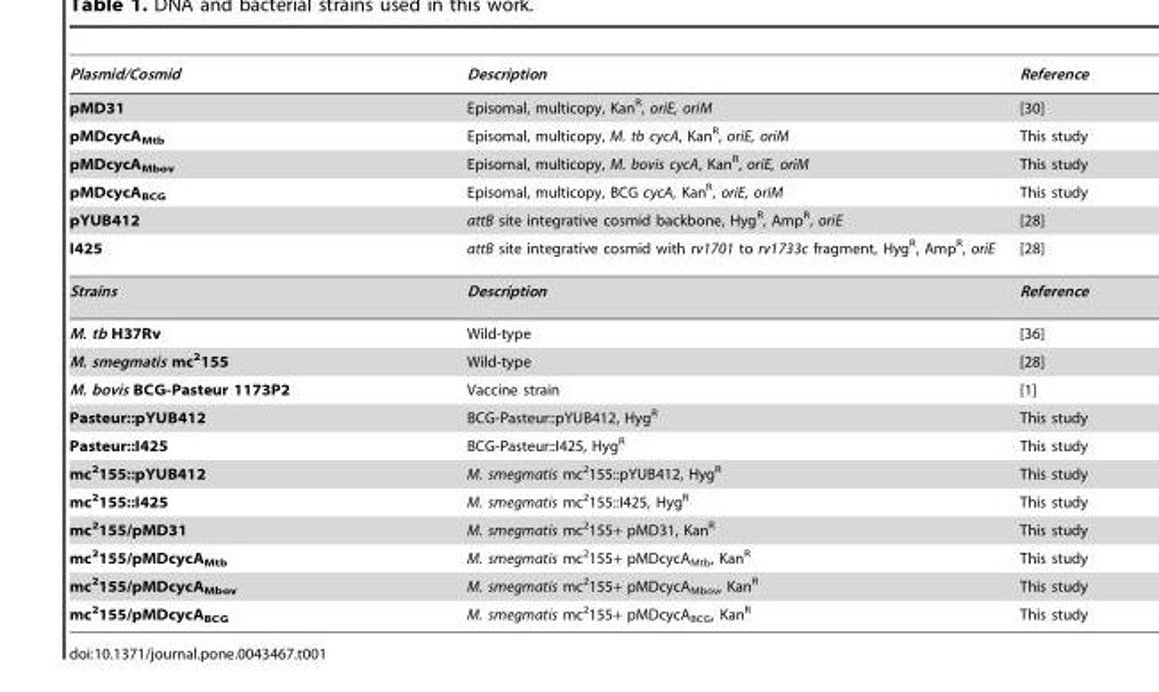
<table><thead><tr><td>Plasmid/Cosmid</td><td>Description</td><td>Reference</td></tr></thead><tbody><tr><td>pMD31</td><td>Episomal, multicopy, Kan<sup>R</sup>, oriE, oriM</td><td>[30]</td></tr><tr><td>pMDcycA<sub>Mtb</sub></td><td>Episomal, multicopy, M. tb cycA, Kan<sup>R</sup>, oriE, oriM</td><td>This study</td></tr><tr><td>pMDcycA<sub>Mbov</sub></td><td>Episomal, multicopy, M. bovis cycA, Kan<sup>R</sup>, oriE, oriM</td><td>This study</td></tr><tr><td>pMDcycA<sub>BCG</sub></td><td>Episomal, multicopy, BCG cycA, Kan<sup>R</sup>, oriE, oriM</td><td>This study</td></tr><tr><td>pYUB412</td><td>attB site integrative cosmid backbone, Hyg<sup>R</sup>, Amp<sup>R</sup>, oriE</td><td>[28]</td></tr><tr><td>I425</td><td>attB site integrative cosmid with rv1701 to rv1733c fragment, Hyg<sup>R</sup>, Amp<sup>R</sup>, oriE</td><td>[28]</td></tr><tr><td>Strains</td><td>Description</td><td>Reference</td></tr><tr><td>M. tb H37Rv</td><td>Wild-type</td><td>[36]</td></tr><tr><td>M. smegmatis mc<sup>2</sup>155</td><td>Wild-type</td><td>[28]</td></tr><tr><td>M. bovis BCG-Pasteur 1173P2</td><td>Vaccine strain</td><td>[1]</td></tr><tr><td>Pasteur::pYUB412</td><td>BCG-Pasteur::pYUB412, Hyg<sup>R</sup></td><td>This study</td></tr><tr><td>Pasteur::I425</td><td>BCG-Pasteur::I425, Hyg<sup>R</sup></td><td>This study</td></tr><tr><td>mc<sup>2</sup>155::pYUB412</td><td>M. smegmatis mc<sup>2</sup>155::pYUB412, Hyg<sup>R</sup></td><td>This study</td></tr><tr><td>mc<sup>2</sup>155::I425</td><td>M. smegmatis mc<sup>2</sup>155::I425, Hyg<sup>R</sup></td><td>This study</td></tr><tr><td>mc<sup>2</sup>155/pMD31</td><td>M. smegmatis mc<sup>2</sup>155+ pMD31, Kan<sup>R</sup></td><td>This study</td></tr><tr><td>mc<sup>2</sup>155/pMDcycA<sub>Mtb</sub></td><td>M. smegmatis mc<sup>2</sup>155+ pMDcycA<sub>Mtb</sub>, Kan<sup>R</sup></td><td>This study</td></tr><tr><td>mc<sup>2</sup>155/pMDcycA<sub>Mbov</sub></td><td>M. smegmatis mc<sup>2</sup>155+ pMDcycA<sub>Mbov</sub>, Kan<sup>R</sup></td><td>This study</td></tr><tr><td>mc<sup>2</sup>155/pMDcycA<sub>BCG</sub></td><td>M. smegmatis mc<sup>2</sup>155+ pMDcycA<sub>BCG</sub>, Kan<sup>R</sup></td><td>This study</td></tr></tbody></table>